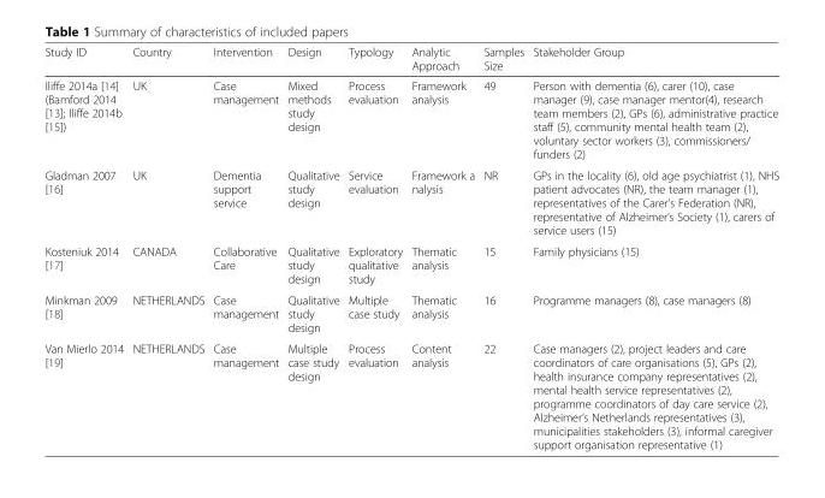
<table><thead><tr><td>Study ID</td><td>Country</td><td>Intervention</td><td>Design</td><td>Typology</td><td>Analytic Approach</td><td>Samples Size</td><td>Stakeholder Group</td></tr></thead><tbody><tr><td>Iliffe 2014a [14] (Bamford 2014 [13]; Iliffe 2014b [15])</td><td>UK</td><td>Case management</td><td>Mixed methods study design</td><td>Process evaluation</td><td>Framework analysis</td><td>49</td><td>Person with dementia (6), carer (10), case manager (9), case manager mentor(4), research team members (2), GPs (6), administrative practice staff (5), community mental health team (2), voluntary sector workers (3), commissioners/ funders (2)</td></tr><tr><td>Gladman 2007 [16]</td><td>UK</td><td>Dementia support service</td><td>Qualitative study design</td><td>Service evaluation</td><td>Framework a nalysis</td><td>NR</td><td>GPs in the locality (6), old age psychiatrist (1), NHS patient advocates (NR), the team manager (1), representatives of the Carer’s Federation (NR), representative of Alzheimer’s Society (1), carers of service users (15)</td></tr><tr><td>Kosteniuk 2014 [17]</td><td>CANADA</td><td>Collaborative Care</td><td>Qualitative study design</td><td>Exploratory qualitative study</td><td>Thematic analysis</td><td>15</td><td>Family physicians (15)</td></tr><tr><td>Minkman 2009 [18]</td><td>NETHERLANDS</td><td>Case management</td><td>Qualitative study design</td><td>Multiple case study</td><td>Thematic analysis</td><td>16</td><td>Programme managers (8), case managers (8)</td></tr><tr><td>Van Mierlo 2014 [19]</td><td>NETHERLANDS</td><td>Case management</td><td>Multiple case study design</td><td>Process evaluation</td><td>Content analysis</td><td>22</td><td>Case managers (2), project leaders and care coordinators of care organisations (5), GPs (2), health insurance company representatives (2), mental health service representatives (2), programme coordinators of day care service (2), Alzheimer’s Netherlands representatives (3), municipalities stakeholders (3), informal caregiver support organisation representative (1)</td></tr></tbody></table>